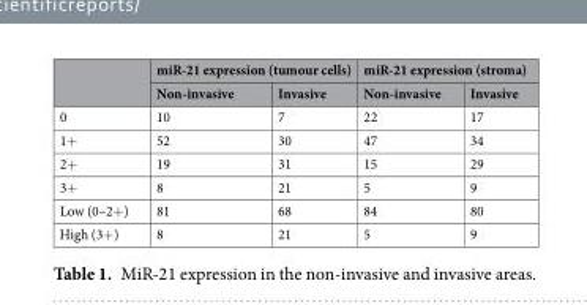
<table><thead><tr><td rowspan="2"></td><td colspan="2">miR-21 expression (tumour cells)</td><td colspan="2">miR-21 expression (stroma)</td></tr><tr><td>Non-invasive</td><td>Invasive</td><td>Non-invasive</td><td>Invasive</td></tr></thead><tbody><tr><td>0</td><td>10</td><td>7</td><td>22</td><td>17</td></tr><tr><td>1+</td><td>52</td><td>30</td><td>47</td><td>34</td></tr><tr><td>2+</td><td>19</td><td>31</td><td>15</td><td>29</td></tr><tr><td>3+</td><td>8</td><td>21</td><td>5</td><td>9</td></tr><tr><td>Low (0–2+)</td><td>81</td><td>68</td><td>84</td><td>80</td></tr><tr><td>High (3+)</td><td>8</td><td>21</td><td>5</td><td>9</td></tr></tbody></table>